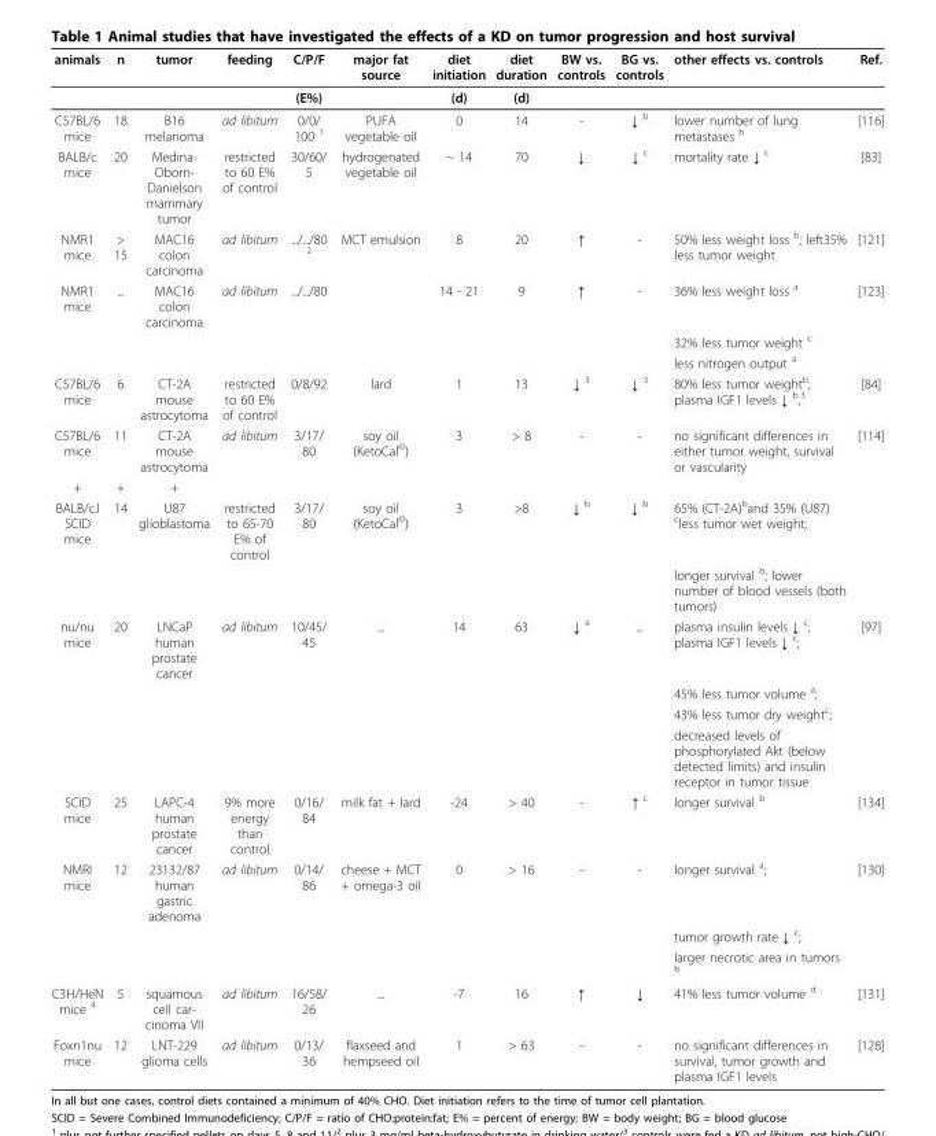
<table><thead><tr><td>animals</td><td>n</td><td>tumor</td><td>feeding</td><td>C/P/F</td><td>major fat source</td><td>diet initiation</td><td>diet duration</td><td>BW vs. controls</td><td>BG vs. controls</td><td>other effects vs. controls</td><td>Ref.</td></tr></thead><tbody><tr><td></td><td></td><td></td><td></td><td>(E%)</td><td></td><td>(d)</td><td>(d)</td><td></td><td></td><td></td><td></td></tr><tr><td>C57BL/6 mice</td><td>18</td><td>B16 melanoma</td><td>ad libitum</td><td>0/0/ 100 <sup>1</sup></td><td>PUFA vegetable oil</td><td>0</td><td>14</td><td>-</td><td>↓ <sup>b</sup></td><td>lower number of lung metastases <sup>b</sup></td><td>[116]</td></tr><tr><td>BALB/c mice</td><td>20</td><td>Medina- Oborn- Danielson mammary tumor</td><td>restricted to 60 E% of control</td><td>30/60/ 5</td><td>hydrogenated vegetable oil</td><td>~ 14</td><td>70</td><td>↓</td><td>↓ <sup>c</sup></td><td>mortality rate ↓ <sup>c</sup></td><td>[83]</td></tr><tr><td>NMR1 mice</td><td>&gt; 15</td><td>MAC16 colon carcinoma</td><td>ad libitum</td><td>.../.../80 <sup>2</sup></td><td>MCT emulsion</td><td>8</td><td>20</td><td>↑</td><td>-</td><td>50% less weight loss <sup>b</sup>; left35% less tumor weight</td><td>[121]</td></tr><tr><td rowspan="3">NMR1 mice</td><td>...</td><td>MAC16 colon carcinoma</td><td>ad libitum</td><td>.../.../80</td><td></td><td>14 - 21</td><td>9</td><td>↑</td><td>-</td><td>36% less weight loss <sup>a</sup></td><td>[123]</td></tr><tr><td></td><td></td><td></td><td></td><td></td><td></td><td></td><td></td><td></td><td>32% less tumor weight <sup>c</sup></td><td></td></tr><tr><td></td><td></td><td></td><td></td><td></td><td></td><td></td><td></td><td></td><td>less nitrogen output <sup>a</sup></td><td></td></tr><tr><td>C57BL/6 mice</td><td>6</td><td>CT-2A mouse astrocytoma</td><td>restricted to 60 E% of control</td><td>0/8/92</td><td>lard</td><td>1</td><td>13</td><td>↓ <sup>3</sup></td><td>↓ <sup>3</sup></td><td>80% less tumor weight<sup>b</sup>; plasma IGF1 levels ↓ <sup>b</sup>,<sup>3</sup></td><td>[84]</td></tr><tr><td>C57BL/6 mice</td><td>11</td><td>CT-2A mouse astrocytoma</td><td>ad libitum</td><td>3/17/ 80</td><td>soy oil (KetoCal<sup>©</sup>)</td><td>3</td><td>&gt; 8</td><td>-</td><td>-</td><td>no significant differences in either tumor weight, survival or vascularity</td><td>[114]</td></tr><tr><td>+</td><td>+</td><td>+</td><td></td><td></td><td></td><td></td><td></td><td></td><td></td><td></td><td></td></tr><tr><td rowspan="2">BALB/cJ SCID mice</td><td>14</td><td>U87 glioblastoma</td><td>restricted to 65-70 E% of control</td><td>3/17/ 80</td><td>soy oil (KetoCal<sup>©</sup>)</td><td>3</td><td>&gt;8</td><td>↓ <sup>b</sup></td><td>↓ <sup>b</sup></td><td>65% (CT-2A)<sup>b</sup>and 35% (U87) <sup>c</sup>less tumor wet weight;</td><td></td></tr><tr><td></td><td></td><td></td><td></td><td></td><td></td><td></td><td></td><td></td><td>longer survival <sup>b</sup>; lower number of blood vessels (both tumors)</td><td></td></tr><tr><td rowspan="4">nu/nu mice</td><td>20</td><td>LNCaP human prostate cancer</td><td>ad libitum</td><td>10/45/ 45</td><td>...</td><td>14</td><td>63</td><td>↓ <sup>a</sup></td><td>...</td><td>plasma insulin levels ↓ <sup>c</sup>; plasma IGF1 levels ↓ <sup>c</sup>;</td><td>[97]</td></tr><tr><td></td><td></td><td></td><td></td><td></td><td></td><td></td><td></td><td></td><td>45% less tumor volume <sup>a</sup>;</td><td></td></tr><tr><td></td><td></td><td></td><td></td><td></td><td></td><td></td><td></td><td></td><td>43% less tumor dry weight<sup>c</sup>;</td><td></td></tr><tr><td></td><td></td><td></td><td></td><td></td><td></td><td></td><td></td><td></td><td>decreased levels of phosphorylated Akt (below detected limits) and insulin receptor in tumor tissue</td><td></td></tr><tr><td>SCID mice</td><td>25</td><td>LAPC-4 human prostate cancer</td><td>9% more energy than control</td><td>0/16/ 84</td><td>milk fat + lard</td><td>-24</td><td>&gt; 40</td><td>-</td><td>↑ <sup>c</sup></td><td>longer survival <sup>b</sup></td><td>[134]</td></tr><tr><td rowspan="3">NMRI mice</td><td>12</td><td>23132/87 human gastric adenoma</td><td>ad libitum</td><td>0/14/ 86</td><td>cheese + MCT + omega-3 oil</td><td>0</td><td>&gt; 16</td><td>-</td><td>-</td><td>longer survival <sup>a</sup>;</td><td>[130]</td></tr><tr><td></td><td></td><td></td><td></td><td></td><td></td><td></td><td></td><td></td><td>tumor growth rate ↓ <sup>c</sup>;</td><td></td></tr><tr><td></td><td></td><td></td><td></td><td></td><td></td><td></td><td></td><td></td><td>larger necrotic area in tumors <sup>b</sup></td><td></td></tr><tr><td>C3H/HeN mice <sup>4</sup></td><td>5</td><td>squamous cell car- cinoma VII</td><td>ad libitum</td><td>16/58/ 26</td><td>...</td><td>-7</td><td>16</td><td>↑</td><td>↓</td><td>41% less tumor volume <sup>d</sup></td><td>[131]</td></tr><tr><td>Foxn1nu mice</td><td>12</td><td>LNT-229 glioma cells</td><td>ad libitum</td><td>0/13/ 36</td><td>flaxseed and hempseed oil</td><td>1</td><td>&gt; 63</td><td>-</td><td>-</td><td>no significant differences in survival, tumor growth and plasma IGF1 levels</td><td>[128]</td></tr></tbody></table>